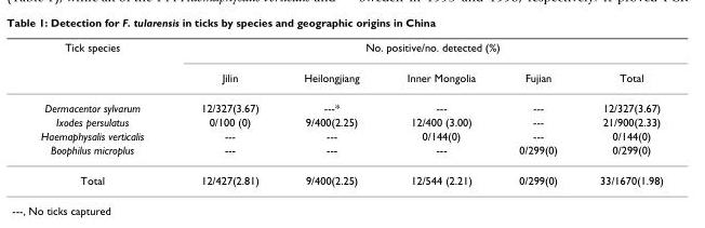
<table><thead><tr><td rowspan="2">Tick species</td><td colspan="5">No. positive/no. detected (%)</td></tr><tr><td>Jilin</td><td>Heilongjiang</td><td>Inner Mongolia</td><td>Fujian</td><td>Total</td></tr></thead><tbody><tr><td>Dermacentor sylvarum</td><td>12/327(3.67)</td><td>---*</td><td>---</td><td>---</td><td>12/327(3.67)</td></tr><tr><td>Ixodes persulatus</td><td>0/100 (0)</td><td>9/400(2.25)</td><td>12/400 (3.00)</td><td>---</td><td>21/900(2.33)</td></tr><tr><td>Haemaphysalis verticalis</td><td>---</td><td>---</td><td>0/144(0)</td><td>---</td><td>0/144(0)</td></tr><tr><td>Boophilus microplus</td><td>---</td><td>---</td><td>---</td><td>0/299(0)</td><td>0/299(0)</td></tr><tr><td>Total</td><td>12/427(2.81)</td><td>9/400(2.25)</td><td>12/544 (2.21)</td><td>0/299(0)</td><td>33/1670(1.98)</td></tr></tbody></table>